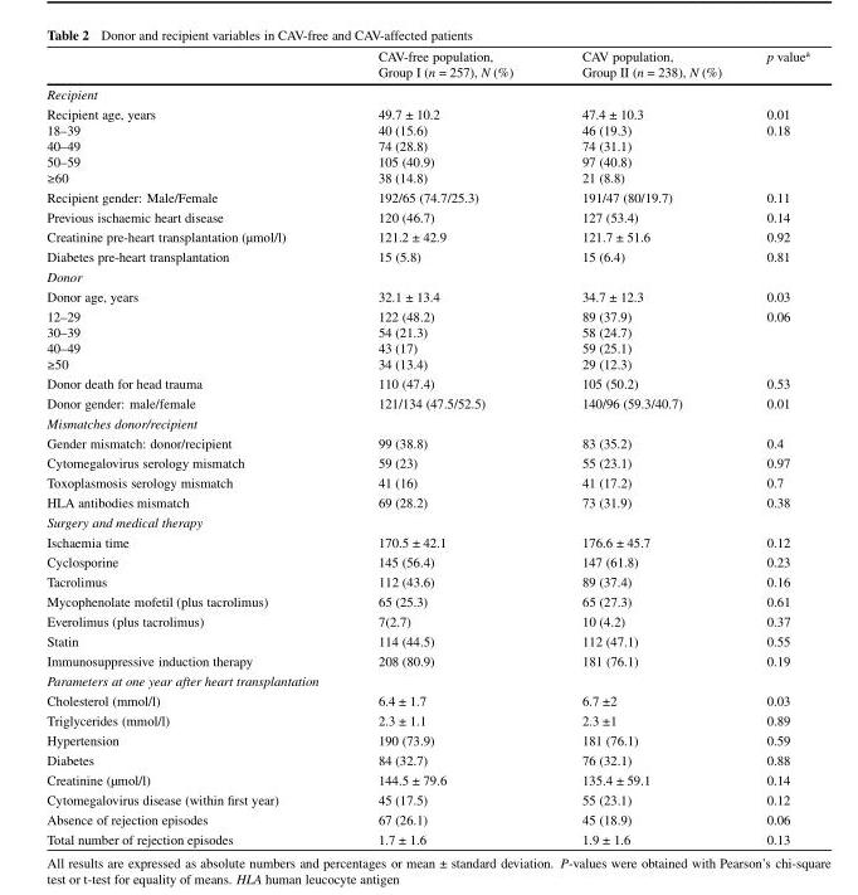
<table><thead><tr><td></td><td>CAV-free population, Group I (n = 257), N (%)</td><td>CAV population, Group II (n = 238), N (%)</td><td>p value<sup>a</sup></td></tr></thead><tbody><tr><td colspan="4">Recipient</td></tr><tr><td>Recipient age, years 18–39 40–49 50–59 ≥60</td><td>49.7 ± 10.2 40 (15.6) 74 (28.8) 105 (40.9) 38 (14.8)</td><td>47.4 ± 10.3 46 (19.3) 74 (31.1) 97 (40.8) 21 (8.8)</td><td>0.01 0.18</td></tr><tr><td>Recipient gender: Male/Female</td><td>192/65 (74.7/25.3)</td><td>191/47 (80/19.7)</td><td>0.11</td></tr><tr><td>Previous ischaemic heart disease</td><td>120 (46.7)</td><td>127 (53.4)</td><td>0.14</td></tr><tr><td>Creatinine pre-heart transplantation (µmol/l)</td><td>121.2 ± 42.9</td><td>121.7 ± 51.6</td><td>0.92</td></tr><tr><td>Diabetes pre-heart transplantation</td><td>15 (5.8)</td><td>15 (6.4)</td><td>0.81</td></tr><tr><td colspan="4">Donor</td></tr><tr><td>Donor age, years</td><td>32.1 ± 13.4</td><td>34.7 ± 12.3</td><td>0.03</td></tr><tr><td>12–29 30–39 40–49 ≥50</td><td>122 (48.2) 54 (21.3) 43 (17) 34 (13.4)</td><td>89 (37.9) 58 (24.7) 59 (25.1) 29 (12.3)</td><td>0.06</td></tr><tr><td>Donor death for head trauma</td><td>110 (47.4)</td><td>105 (50.2)</td><td>0.53</td></tr><tr><td>Donor gender: male/female</td><td>121/134 (47.5/52.5)</td><td>140/96 (59.3/40.7)</td><td>0.01</td></tr><tr><td colspan="4">Mismatches donor/recipient</td></tr><tr><td>Gender mismatch: donor/recipient</td><td>99 (38.8)</td><td>83 (35.2)</td><td>0.4</td></tr><tr><td>Cytomegalovirus serology mismatch</td><td>59 (23)</td><td>55 (23.1)</td><td>0.97</td></tr><tr><td>Toxoplasmosis serology mismatch</td><td>41 (16)</td><td>41 (17.2)</td><td>0.7</td></tr><tr><td>HLA antibodies mismatch</td><td>69 (28.2)</td><td>73 (31.9)</td><td>0.38</td></tr><tr><td colspan="4">Surgery and medical therapy</td></tr><tr><td>Ischaemia time</td><td>170.5 ± 42.1</td><td>176.6 ± 45.7</td><td>0.12</td></tr><tr><td>Cyclosporine</td><td>145 (56.4)</td><td>147 (61.8)</td><td>0.23</td></tr><tr><td>Tacrolimus</td><td>112 (43.6)</td><td>89 (37.4)</td><td>0.16</td></tr><tr><td>Mycophenolate mofetil (plus tacrolimus)</td><td>65 (25.3)</td><td>65 (27.3)</td><td>0.61</td></tr><tr><td>Everolimus (plus tacrolimus)</td><td>7(2.7)</td><td>10 (4.2)</td><td>0.37</td></tr><tr><td>Statin</td><td>114 (44.5)</td><td>112 (47.1)</td><td>0.55</td></tr><tr><td>Immunosuppressive induction therapy</td><td>208 (80.9)</td><td>181 (76.1)</td><td>0.19</td></tr><tr><td colspan="4">Parameters at one year after heart transplantation</td></tr><tr><td>Cholesterol (mmol/l)</td><td>6.4 ± 1.7</td><td>6.7 ±2</td><td>0.03</td></tr><tr><td>Triglycerides (mmol/l)</td><td>2.3 ± 1.1</td><td>2.3 ±1</td><td>0.89</td></tr><tr><td>Hypertension</td><td>190 (73.9)</td><td>181 (76.1)</td><td>0.59</td></tr><tr><td>Diabetes</td><td>84 (32.7)</td><td>76 (32.1)</td><td>0.88</td></tr><tr><td>Creatinine (µmol/l)</td><td>144.5 ± 79.6</td><td>135.4 ± 59.1</td><td>0.14</td></tr><tr><td>Cytomegalovirus disease (within first year)</td><td>45 (17.5)</td><td>55 (23.1)</td><td>0.12</td></tr><tr><td>Absence of rejection episodes</td><td>67 (26.1)</td><td>45 (18.9)</td><td>0.06</td></tr><tr><td>Total number of rejection episodes</td><td>1.7 ± 1.6</td><td>1.9 ± 1.6</td><td>0.13</td></tr></tbody></table>